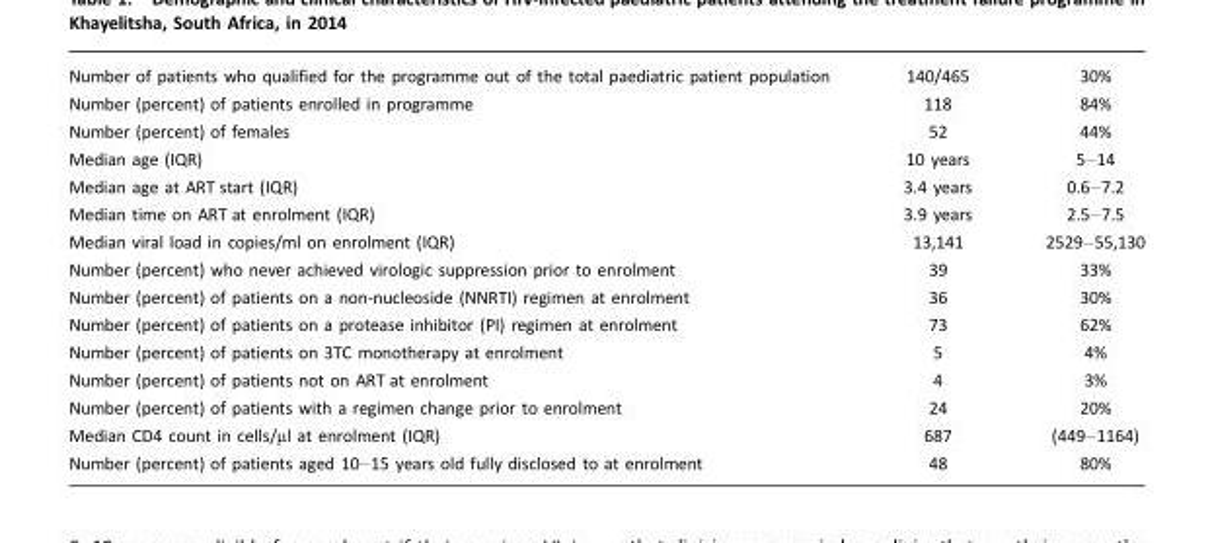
<table><tbody><tr><td>Number of patients who qualified for the programme out of the total paediatric patient population</td><td>140/465</td><td>30%</td></tr><tr><td>Number (percent) of patients enrolled in programme</td><td>118</td><td>84%</td></tr><tr><td>Number (percent) of females</td><td>52</td><td>44%</td></tr><tr><td>Median age (IQR)</td><td>10 years</td><td>5–14</td></tr><tr><td>Median age at ART start (IQR)</td><td>3.4 years</td><td>0.6–7.2</td></tr><tr><td>Median time on ART at enrolment (IQR)</td><td>3.9 years</td><td>2.5–7.5</td></tr><tr><td>Median viral load in copies/ml on enrolment (IQR)</td><td>13,141</td><td>2529–55,130</td></tr><tr><td>Number (percent) who never achieved virologic suppression prior to enrolment</td><td>39</td><td>33%</td></tr><tr><td>Number (percent) of patients on a non-nucleoside (NNRTI) regimen at enrolment</td><td>36</td><td>30%</td></tr><tr><td>Number (percent) of patients on a protease inhibitor (PI) regimen at enrolment</td><td>73</td><td>62%</td></tr><tr><td>Number (percent) of patients on 3TC monotherapy at enrolment</td><td>5</td><td>4%</td></tr><tr><td>Number (percent) of patients not on ART at enrolment</td><td>4</td><td>3%</td></tr><tr><td>Number (percent) of patients with a regimen change prior to enrolment</td><td>24</td><td>20%</td></tr><tr><td>Median CD4 count in cells/µl at enrolment (IQR)</td><td>687</td><td>(449–1164)</td></tr><tr><td>Number (percent) of patients aged 10–15 years old fully disclosed to at enrolment</td><td>48</td><td>80%</td></tr></tbody></table>